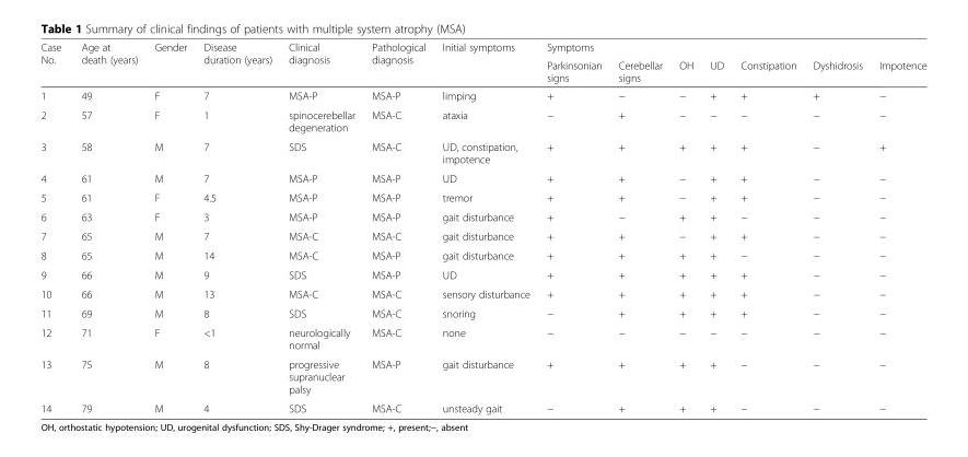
<table><thead><tr><td rowspan="2">Case No.</td><td rowspan="2">Age at death (years)</td><td rowspan="2">Gender</td><td rowspan="2">Disease duration (years)</td><td rowspan="2">Clinical diagnosis</td><td rowspan="2">Pathological diagnosis</td><td rowspan="2">Initial symptoms</td><td colspan="7">Symptoms</td></tr><tr><td>Parkinsonian signs</td><td>Cerebellar signs</td><td>OH</td><td>UD</td><td>Constipation</td><td>Dyshidrosis</td><td>Impotence</td></tr></thead><tbody><tr><td>1</td><td>49</td><td>F</td><td>7</td><td>MSA-P</td><td>MSA-P</td><td>limping</td><td>+</td><td>−</td><td>−</td><td>+</td><td>+</td><td>+</td><td>−</td></tr><tr><td>2</td><td>57</td><td>F</td><td>1</td><td>spinocerebellar degeneration</td><td>MSA-C</td><td>ataxia</td><td>−</td><td>+</td><td>−</td><td>−</td><td>−</td><td>−</td><td>−</td></tr><tr><td>3</td><td>58</td><td>M</td><td>7</td><td>SDS</td><td>MSA-C</td><td>UD, constipation, impotence</td><td>+</td><td>+</td><td>+</td><td>+</td><td>+</td><td>−</td><td>+</td></tr><tr><td>4</td><td>61</td><td>M</td><td>7</td><td>MSA-P</td><td>MSA-P</td><td>UD</td><td>+</td><td>+</td><td>−</td><td>+</td><td>+</td><td>−</td><td>−</td></tr><tr><td>5</td><td>61</td><td>F</td><td>4.5</td><td>MSA-P</td><td>MSA-P</td><td>tremor</td><td>+</td><td>+</td><td>−</td><td>+</td><td>+</td><td>−</td><td>−</td></tr><tr><td>6</td><td>63</td><td>F</td><td>3</td><td>MSA-P</td><td>MSA-P</td><td>gait disturbance</td><td>+</td><td>−</td><td>+</td><td>+</td><td>−</td><td>−</td><td>−</td></tr><tr><td>7</td><td>65</td><td>M</td><td>7</td><td>MSA-C</td><td>MSA-C</td><td>gait disturbance</td><td>+</td><td>+</td><td>−</td><td>+</td><td>+</td><td>−</td><td>−</td></tr><tr><td>8</td><td>65</td><td>M</td><td>14</td><td>MSA-C</td><td>MSA-P</td><td>gait disturbance</td><td>+</td><td>+</td><td>+</td><td>+</td><td>−</td><td>−</td><td>−</td></tr><tr><td>9</td><td>66</td><td>M</td><td>9</td><td>SDS</td><td>MSA-P</td><td>UD</td><td>+</td><td>+</td><td>+</td><td>+</td><td>+</td><td>−</td><td>−</td></tr><tr><td>10</td><td>66</td><td>M</td><td>13</td><td>MSA-C</td><td>MSA-C</td><td>sensory disturbance</td><td>+</td><td>+</td><td>+</td><td>+</td><td>+</td><td>−</td><td>−</td></tr><tr><td>11</td><td>69</td><td>M</td><td>8</td><td>SDS</td><td>MSA-C</td><td>snoring</td><td>−</td><td>+</td><td>+</td><td>+</td><td>+</td><td>−</td><td>−</td></tr><tr><td>12</td><td>71</td><td>F</td><td>&lt;1</td><td>neurologically normal</td><td>MSA-C</td><td>none</td><td>−</td><td>−</td><td>−</td><td>−</td><td>−</td><td>−</td><td>−</td></tr><tr><td>13</td><td>75</td><td>M</td><td>8</td><td>progressive supranuclear palsy</td><td>MSA-P</td><td>gait disturbance</td><td>+</td><td>+</td><td>+</td><td>+</td><td>−</td><td>−</td><td>−</td></tr><tr><td>14</td><td>79</td><td>M</td><td>4</td><td>SDS</td><td>MSA-C</td><td>unsteady gait</td><td>−</td><td>+</td><td>+</td><td>+</td><td>−</td><td>−</td><td>−</td></tr></tbody></table>